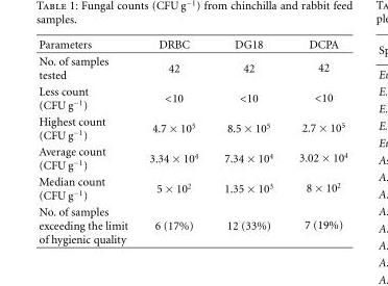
<table><thead><tr><td>Parameters</td><td>DRBC</td><td>DG18</td><td>DCPA</td></tr></thead><tbody><tr><td>No. of samples tested</td><td>42</td><td>42</td><td>42</td></tr><tr><td>Less count (CFU g<sup>−1</sup>)</td><td>&lt;10</td><td>&lt;10</td><td>&lt;10</td></tr><tr><td>Highest count (CFU g<sup>−1</sup>)</td><td>4.7 × 10<sup>5</sup></td><td>8.5 × 10<sup>5</sup></td><td>2.7 × 10<sup>5</sup></td></tr><tr><td>Average count (CFU g<sup>−1</sup>)</td><td>3.34 × 10<sup>4</sup></td><td>7.34 × 10<sup>4</sup></td><td>3.02 × 10<sup>4</sup></td></tr><tr><td>Median count (CFU g<sup>−1</sup>)</td><td>5 × 10<sup>2</sup></td><td>1.35 × 10<sup>3</sup></td><td>8 × 10<sup>2</sup></td></tr><tr><td>No. of samples exceeding the limit of hygienic quality</td><td>6 (17%)</td><td>12 (33%)</td><td>7 (19%)</td></tr></tbody></table>